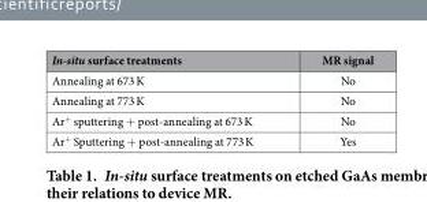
<table><thead><tr><td>In-situ surface treatments</td><td>MR signal</td></tr></thead><tbody><tr><td>Annealing at 673 K</td><td>No</td></tr><tr><td>Annealing at 773 K</td><td>No</td></tr><tr><td>Ar<sup>+</sup> sputtering + post-annealing at 673 K</td><td>No</td></tr><tr><td>Ar<sup>+</sup> Sputtering + post-annealing at 773 K</td><td>Yes</td></tr></tbody></table>